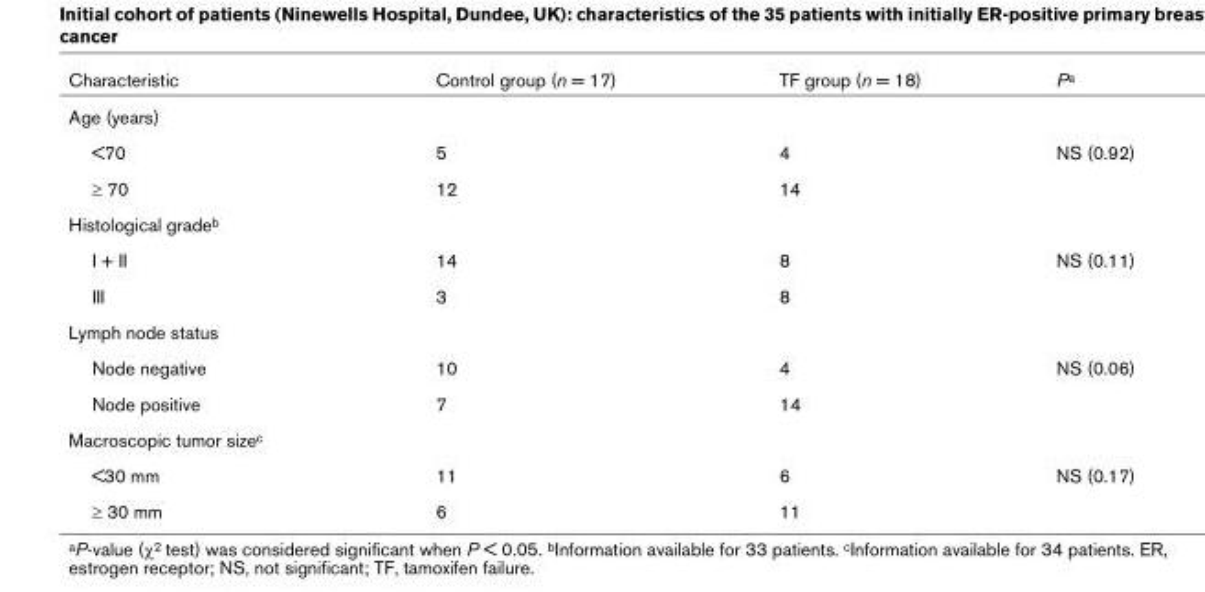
<table><thead><tr><td>Characteristic</td><td>Control group (n = 17)</td><td>TF group (n = 18)</td><td>P<sup>a</sup></td></tr></thead><tbody><tr><td colspan="4">Age (years)</td></tr><tr><td>&lt;70</td><td>5</td><td>4</td><td>NS (0.92)</td></tr><tr><td>≥ 70</td><td>12</td><td>14</td><td></td></tr><tr><td colspan="4">Histological grade<sup>b</sup></td></tr><tr><td>I + II</td><td>14</td><td>8</td><td>NS (0.11)</td></tr><tr><td>III</td><td>3</td><td>8</td><td></td></tr><tr><td colspan="4">Lymph node status</td></tr><tr><td>Node negative</td><td>10</td><td>4</td><td>NS (0.06)</td></tr><tr><td>Node positive</td><td>7</td><td>14</td><td></td></tr><tr><td colspan="4">Macroscopic tumor size<sup>c</sup></td></tr><tr><td>&lt;30 mm</td><td>11</td><td>6</td><td>NS (0.17)</td></tr><tr><td>≥ 30 mm</td><td>6</td><td>11</td><td></td></tr></tbody></table>